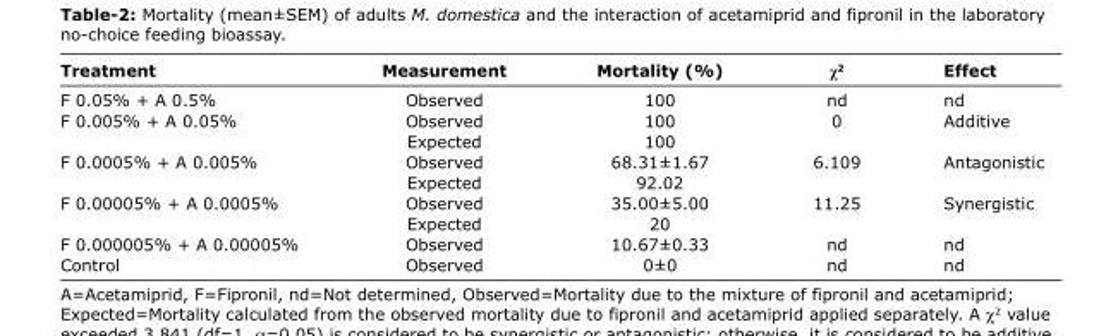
<table><thead><tr><td>Treatment</td><td>Measurement</td><td>Mortality (%)</td><td>χ<sup>2</sup></td><td>Effect</td></tr></thead><tbody><tr><td>F 0.05% + A 0.5%</td><td>Observed</td><td>100</td><td>nd</td><td>nd</td></tr><tr><td rowspan="2">F 0.005% + A 0.05%</td><td>Observed</td><td>100</td><td>0</td><td>Additive</td></tr><tr><td>Expected</td><td>100</td><td></td><td></td></tr><tr><td rowspan="2">F 0.0005% + A 0.005%</td><td>Observed</td><td>68.31±1.67</td><td>6.109</td><td>Antagonistic</td></tr><tr><td>Expected</td><td>92.02</td><td></td><td></td></tr><tr><td rowspan="2">F 0.00005% + A 0.0005%</td><td>Observed</td><td>35.00±5.00</td><td>11.25</td><td>Synergistic</td></tr><tr><td>Expected</td><td>20</td><td></td><td></td></tr><tr><td>F 0.000005% + A 0.00005%</td><td>Observed</td><td>10.67±0.33</td><td>nd</td><td>nd</td></tr><tr><td>Control</td><td>Observed</td><td>0±0</td><td>nd</td><td>nd</td></tr></tbody></table>